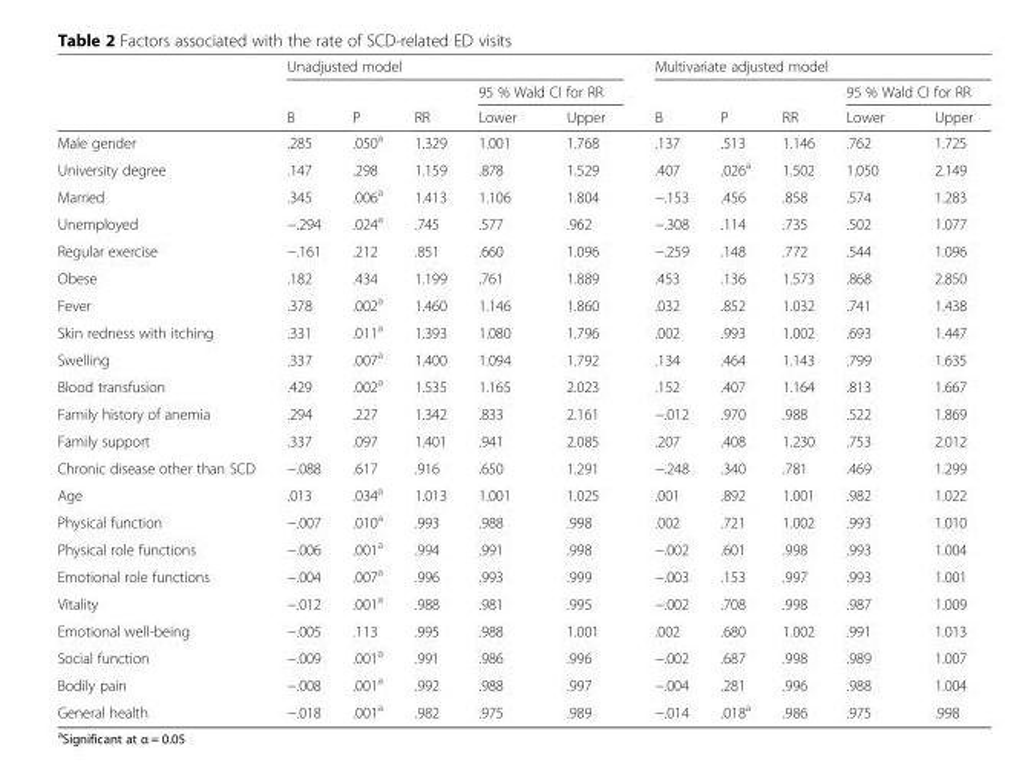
<table><thead><tr><td rowspan="3"></td><td colspan="5">Unadjusted model</td><td colspan="5">Multivariate adjusted model</td></tr><tr><td rowspan="2">B</td><td rowspan="2">P</td><td rowspan="2">RR</td><td colspan="2">95 % Wald CI for RR</td><td rowspan="2">B</td><td rowspan="2">P</td><td rowspan="2">RR</td><td colspan="2">95 % Wald CI for RR</td></tr><tr><td>Lower</td><td>Upper</td><td>Lower</td><td>Upper</td></tr></thead><tbody><tr><td>Male gender</td><td>.285</td><td>.050<sup>a</sup></td><td>1.329</td><td>1.001</td><td>1.768</td><td>.137</td><td>.513</td><td>1.146</td><td>.762</td><td>1.725</td></tr><tr><td>University degree</td><td>.147</td><td>.298</td><td>1.159</td><td>.878</td><td>1.529</td><td>.407</td><td>.026<sup>a</sup></td><td>1.502</td><td>1.050</td><td>2.149</td></tr><tr><td>Married</td><td>.345</td><td>.006<sup>a</sup></td><td>1.413</td><td>1.106</td><td>1.804</td><td>−.153</td><td>.456</td><td>.858</td><td>.574</td><td>1.283</td></tr><tr><td>Unemployed</td><td>−.294</td><td>.024<sup>a</sup></td><td>.745</td><td>.577</td><td>.962</td><td>−.308</td><td>.114</td><td>.735</td><td>.502</td><td>1.077</td></tr><tr><td>Regular exercise</td><td>−.161</td><td>.212</td><td>.851</td><td>.660</td><td>1.096</td><td>−.259</td><td>.148</td><td>.772</td><td>.544</td><td>1.096</td></tr><tr><td>Obese</td><td>.182</td><td>.434</td><td>1.199</td><td>.761</td><td>1.889</td><td>.453</td><td>.136</td><td>1.573</td><td>.868</td><td>2.850</td></tr><tr><td>Fever</td><td>.378</td><td>.002<sup>a</sup></td><td>1.460</td><td>1.146</td><td>1.860</td><td>.032</td><td>.852</td><td>1.032</td><td>.741</td><td>1.438</td></tr><tr><td>Skin redness with itching</td><td>.331</td><td>.011<sup>a</sup></td><td>1.393</td><td>1.080</td><td>1.796</td><td>.002</td><td>.993</td><td>1.002</td><td>.693</td><td>1.447</td></tr><tr><td>Swelling</td><td>.337</td><td>.007<sup>a</sup></td><td>1.400</td><td>1.094</td><td>1.792</td><td>.134</td><td>.464</td><td>1.143</td><td>.799</td><td>1.635</td></tr><tr><td>Blood transfusion</td><td>.429</td><td>.002<sup>a</sup></td><td>1.535</td><td>1.165</td><td>2.023</td><td>.152</td><td>.407</td><td>1.164</td><td>.813</td><td>1.667</td></tr><tr><td>Family history of anemia</td><td>.294</td><td>.227</td><td>1.342</td><td>.833</td><td>2.161</td><td>−.012</td><td>.970</td><td>.988</td><td>.522</td><td>1.869</td></tr><tr><td>Family support</td><td>.337</td><td>.097</td><td>1.401</td><td>.941</td><td>2.085</td><td>.207</td><td>.408</td><td>1.230</td><td>.753</td><td>2.012</td></tr><tr><td>Chronic disease other than SCD</td><td>−.088</td><td>.617</td><td>.916</td><td>.650</td><td>1.291</td><td>−.248</td><td>.340</td><td>.781</td><td>.469</td><td>1.299</td></tr><tr><td>Age</td><td>.013</td><td>.034<sup>a</sup></td><td>1.013</td><td>1.001</td><td>1.025</td><td>.001</td><td>.892</td><td>1.001</td><td>.982</td><td>1.022</td></tr><tr><td>Physical function</td><td>−.007</td><td>.010<sup>a</sup></td><td>.993</td><td>.988</td><td>.998</td><td>.002</td><td>.721</td><td>1.002</td><td>.993</td><td>1.010</td></tr><tr><td>Physical role functions</td><td>−.006</td><td>.001<sup>a</sup></td><td>.994</td><td>.991</td><td>.998</td><td>−.002</td><td>.601</td><td>.998</td><td>.993</td><td>1.004</td></tr><tr><td>Emotional role functions</td><td>−.004</td><td>.007<sup>a</sup></td><td>.996</td><td>.993</td><td>.999</td><td>−.003</td><td>.153</td><td>.997</td><td>.993</td><td>1.001</td></tr><tr><td>Vitality</td><td>−.012</td><td>.001<sup>a</sup></td><td>.988</td><td>.981</td><td>.995</td><td>−.002</td><td>.708</td><td>.998</td><td>.987</td><td>1.009</td></tr><tr><td>Emotional well-being</td><td>−.005</td><td>.113</td><td>.995</td><td>.988</td><td>1.001</td><td>.002</td><td>.680</td><td>1.002</td><td>.991</td><td>1.013</td></tr><tr><td>Social function</td><td>−.009</td><td>.001<sup>a</sup></td><td>.991</td><td>.986</td><td>.996</td><td>−.002</td><td>.687</td><td>.998</td><td>.989</td><td>1.007</td></tr><tr><td>Bodily pain</td><td>−.008</td><td>.001<sup>a</sup></td><td>.992</td><td>.988</td><td>.997</td><td>−.004</td><td>.281</td><td>.996</td><td>.988</td><td>1.004</td></tr><tr><td>General health</td><td>−.018</td><td>.001<sup>a</sup></td><td>.982</td><td>.975</td><td>.989</td><td>−.014</td><td>.018<sup>a</sup></td><td>.986</td><td>.975</td><td>.998</td></tr></tbody></table>